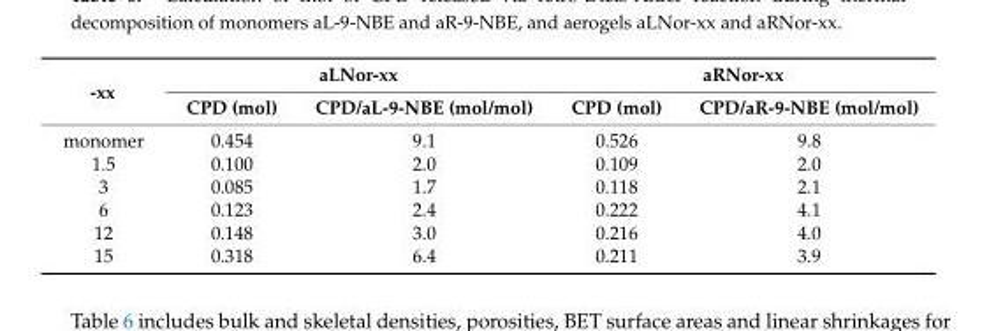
<table><thead><tr><td rowspan="2">-xx</td><td colspan="2">aLNor-xx</td><td colspan="2">aRNor-xx</td></tr><tr><td>CPD (mol)</td><td>CPD/aL-9-NBE (mol/mol)</td><td>CPD (mol)</td><td>CPD/aR-9-NBE (mol/mol)</td></tr></thead><tbody><tr><td>monomer</td><td>0.454</td><td>9.1</td><td>0.526</td><td>9.8</td></tr><tr><td>1.5</td><td>0.100</td><td>2.0</td><td>0.109</td><td>2.0</td></tr><tr><td>3</td><td>0.085</td><td>1.7</td><td>0.118</td><td>2.1</td></tr><tr><td>6</td><td>0.123</td><td>2.4</td><td>0.222</td><td>4.1</td></tr><tr><td>12</td><td>0.148</td><td>3.0</td><td>0.216</td><td>4.0</td></tr><tr><td>15</td><td>0.318</td><td>6.4</td><td>0.211</td><td>3.9</td></tr></tbody></table>